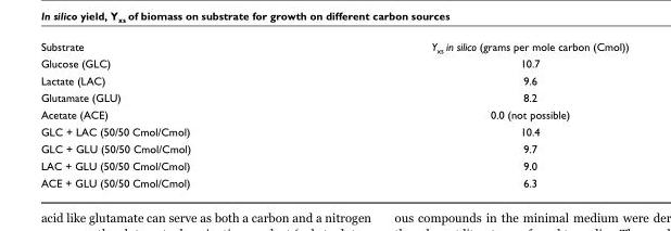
<table><tbody><tr><td>Substrate</td><td>Y<sub>xs</sub> in silico (grams per mole carbon (Cmol))</td></tr><tr><td>Glucose (GLC)</td><td>10.7</td></tr><tr><td>Lactate (LAC)</td><td>9.6</td></tr><tr><td>Glutamate (GLU)</td><td>8.2</td></tr><tr><td>Acetate (ACE)</td><td>0.0 (not possible)</td></tr><tr><td>GLC + LAC (50/50 Cmol/Cmol)</td><td>10.4</td></tr><tr><td>GLC + GLU (50/50 Cmol/Cmol)</td><td>9.7</td></tr><tr><td>LAC + GLU (50/50 Cmol/Cmol)</td><td>9.0</td></tr><tr><td>ACE + GLU (50/50 Cmol/Cmol)</td><td>6.3</td></tr></tbody></table>